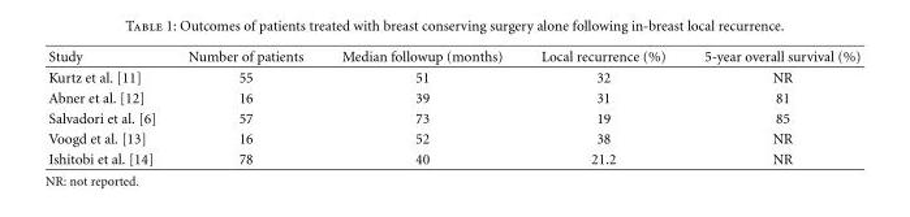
<table><thead><tr><td>Study</td><td>Number of patients</td><td>Median followup (months)</td><td>Local recurrence (%)</td><td>5-year overall survival (%)</td></tr></thead><tbody><tr><td>Kurtz et al. [11]</td><td>55</td><td>51</td><td>32</td><td>NR</td></tr><tr><td>Abner et al. [12]</td><td>16</td><td>39</td><td>31</td><td>81</td></tr><tr><td>Salvadori et al. [6]</td><td>57</td><td>73</td><td>19</td><td>85</td></tr><tr><td>Voogd et al. [13]</td><td>16</td><td>52</td><td>38</td><td>NR</td></tr><tr><td>Ishitobi et al. [14]</td><td>78</td><td>40</td><td>21.2</td><td>NR</td></tr></tbody></table>